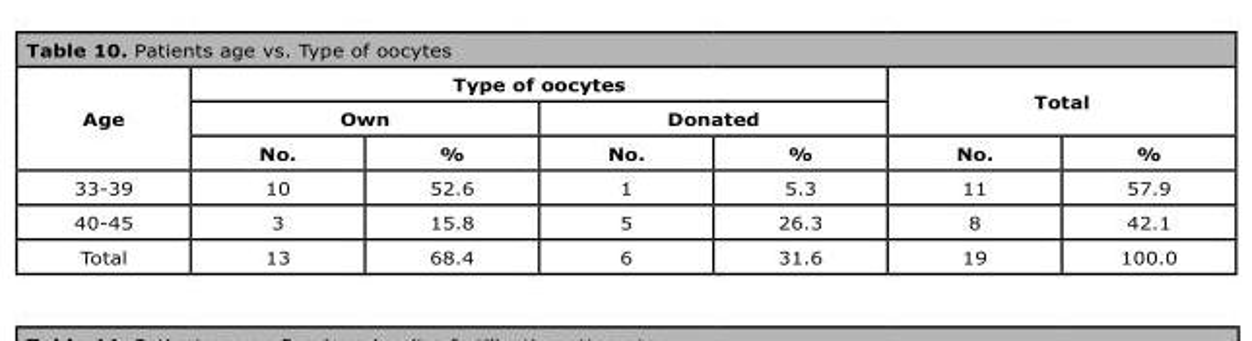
<table><thead><tr><td rowspan="3">Age</td><td colspan="4">Type of oocytes</td><td rowspan="2" colspan="2">Total</td></tr><tr><td colspan="2">Own</td><td colspan="2">Donated</td></tr><tr><td>No.</td><td>%</td><td>No.</td><td>%</td><td>No.</td><td>%</td></tr></thead><tbody><tr><td>33-39</td><td>10</td><td>52.6</td><td>1</td><td>5.3</td><td>11</td><td>57.9</td></tr><tr><td>40-45</td><td>3</td><td>15.8</td><td>5</td><td>26.3</td><td>8</td><td>42.1</td></tr><tr><td>Total</td><td>13</td><td>68.4</td><td>6</td><td>31.6</td><td>19</td><td>100.0</td></tr></tbody></table>